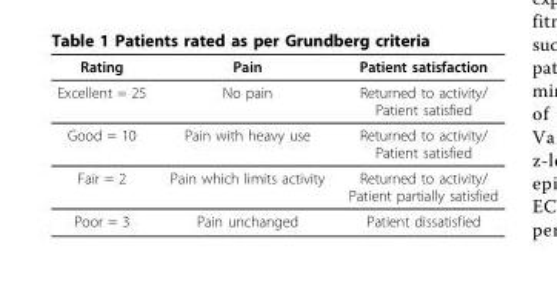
<table><thead><tr><td>Rating</td><td>Pain</td><td>Patient satisfaction</td></tr></thead><tbody><tr><td>Excellent = 25</td><td>No pain</td><td>Returned to activity/ Patient satisfied</td></tr><tr><td>Good = 10</td><td>Pain with heavy use</td><td>Returned to activity/ Patient satisfied</td></tr><tr><td>Fair = 2</td><td>Pain which limits activity</td><td>Returned to activity/ Patient partially satisfied</td></tr><tr><td>Poor = 3</td><td>Pain unchanged</td><td>Patient dissatisfied</td></tr></tbody></table>